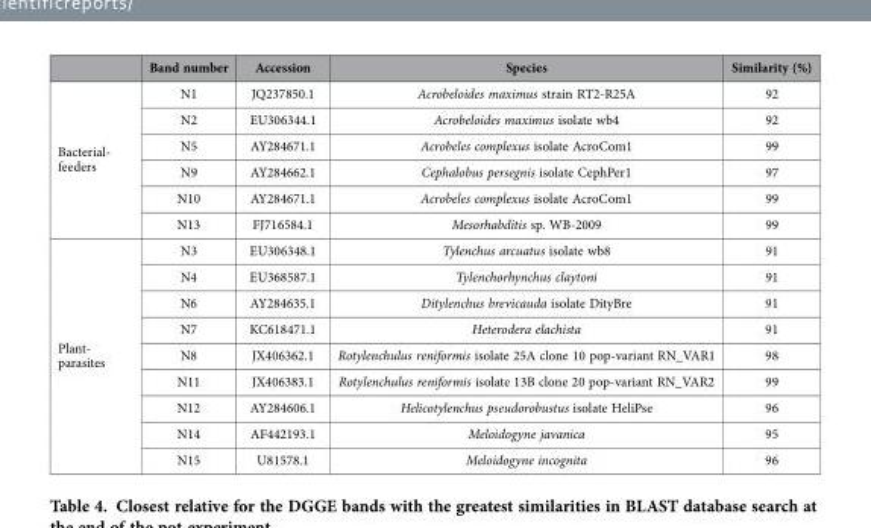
<table><thead><tr><td></td><td>Band number</td><td>Accession</td><td>Species</td><td>Similarity (%)</td></tr></thead><tbody><tr><td rowspan="6">Bacterial- feeders</td><td>N1</td><td>JQ237850.1</td><td>Acrobeloides maximus strain RT2-R25A</td><td>92</td></tr><tr><td>N2</td><td>EU306344.1</td><td>Acrobeloides maximus isolate wb4</td><td>92</td></tr><tr><td>N5</td><td>AY284671.1</td><td>Acrobeles complexus isolate AcroCom1</td><td>99</td></tr><tr><td>N9</td><td>AY284662.1</td><td>Cephalobus persegnis isolate CephPer1</td><td>97</td></tr><tr><td>N10</td><td>AY284671.1</td><td>Acrobeles complexus isolate AcroCom1</td><td>99</td></tr><tr><td>N13</td><td>FJ716584.1</td><td>Mesorhabditis sp. WB-2009</td><td>99</td></tr><tr><td rowspan="9">Plant- parasites</td><td>N3</td><td>EU306348.1</td><td>Tylenchus arcuatus isolate wb8</td><td>91</td></tr><tr><td>N4</td><td>EU368587.1</td><td>Tylenchorhynchus claytoni</td><td>91</td></tr><tr><td>N6</td><td>AY284635.1</td><td>Ditylenchus brevicauda isolate DityBre</td><td>91</td></tr><tr><td>N7</td><td>KC618471.1</td><td>Heterodera elachista</td><td>91</td></tr><tr><td>N8</td><td>JX406362.1</td><td>Rotylenchulus reniformis isolate 25A clone 10 pop-variant RN_VAR1</td><td>98</td></tr><tr><td>N11</td><td>JX406383.1</td><td>Rotylenchulus reniformis isolate 13B clone 20 pop-variant RN_VAR2</td><td>99</td></tr><tr><td>N12</td><td>AY284606.1</td><td>Helicotylenchus pseudorobustus isolate HeliPse</td><td>96</td></tr><tr><td>N14</td><td>AF442193.1</td><td>Meloidogyne javanica</td><td>95</td></tr><tr><td>N15</td><td>U81578.1</td><td>Meloidogyne incognita</td><td>96</td></tr></tbody></table>